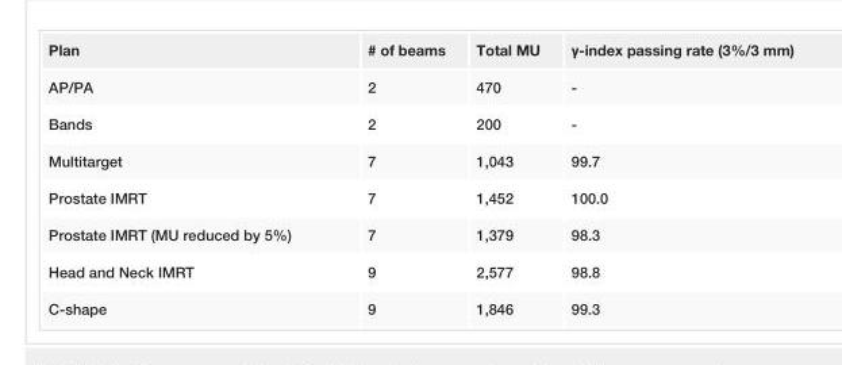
<table><tbody><tr><td>Plan</td><td># of beams</td><td>Total MU</td><td>γ-index passing rate (3%/3 mm)</td></tr><tr><td>AP/PA</td><td>2</td><td>470</td><td>-</td></tr><tr><td>Bands</td><td>2</td><td>200</td><td>-</td></tr><tr><td>Multitarget</td><td>7</td><td>1,043</td><td>99.7</td></tr><tr><td>Prostate IMRT</td><td>7</td><td>1,452</td><td>100.0</td></tr><tr><td>Prostate IMRT (MU reduced by 5%)</td><td>7</td><td>1,379</td><td>98.3</td></tr><tr><td>Head and Neck IMRT</td><td>9</td><td>2,577</td><td>98.8</td></tr><tr><td>C-shape</td><td>9</td><td>1,846</td><td>99.3</td></tr></tbody></table>